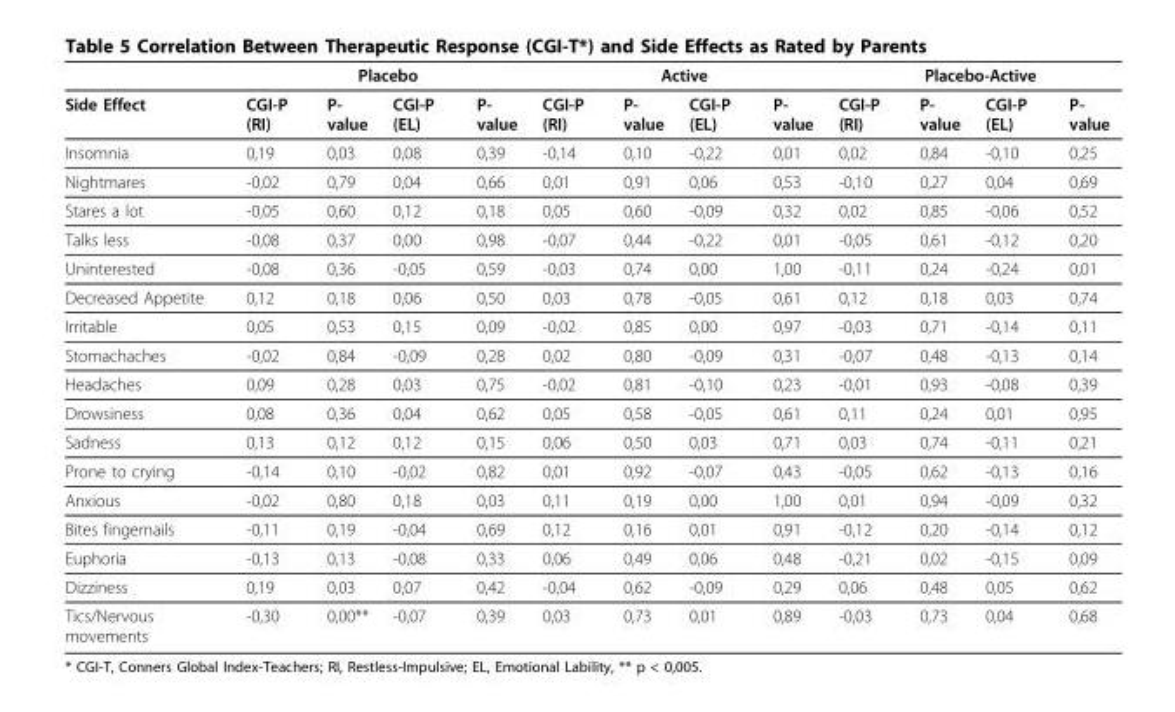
<table><thead><tr><td rowspan="2">Side Effect</td><td colspan="4">Placebo</td><td colspan="4">Active</td><td colspan="4">Placebo-Active</td></tr><tr><td>CGI-P (RI)</td><td>P- value</td><td>CGI-P (EL)</td><td>P- value</td><td>CGI-P (RI)</td><td>P- value</td><td>CGI-P (EL)</td><td>P- value</td><td>CGI-P (RI)</td><td>P- value</td><td>CGI-P (EL)</td><td>P- value</td></tr></thead><tbody><tr><td>Insomnia</td><td>0,19</td><td>0,03</td><td>0,08</td><td>0,39</td><td>-0,14</td><td>0,10</td><td>-0,22</td><td>0,01</td><td>0,02</td><td>0,84</td><td>-0,10</td><td>0,25</td></tr><tr><td>Nightmares</td><td>-0,02</td><td>0,79</td><td>0,04</td><td>0,66</td><td>0,01</td><td>0,91</td><td>0,06</td><td>0,53</td><td>-0,10</td><td>0,27</td><td>0,04</td><td>0,69</td></tr><tr><td>Stares a lot</td><td>-0,05</td><td>0,60</td><td>0,12</td><td>0,18</td><td>0,05</td><td>0,60</td><td>-0,09</td><td>0,32</td><td>0,02</td><td>0,85</td><td>-0,06</td><td>0,52</td></tr><tr><td>Talks less</td><td>-0,08</td><td>0,37</td><td>0,00</td><td>0,98</td><td>-0,07</td><td>0,44</td><td>-0,22</td><td>0,01</td><td>-0,05</td><td>0,61</td><td>-0,12</td><td>0,20</td></tr><tr><td>Uninterested</td><td>-0,08</td><td>0,36</td><td>-0,05</td><td>0,59</td><td>-0,03</td><td>0,74</td><td>0,00</td><td>1,00</td><td>-0,11</td><td>0,24</td><td>-0,24</td><td>0,01</td></tr><tr><td>Decreased Appetite</td><td>0,12</td><td>0,18</td><td>0,06</td><td>0,50</td><td>0,03</td><td>0,78</td><td>-0,05</td><td>0,61</td><td>0,12</td><td>0,18</td><td>0,03</td><td>0,74</td></tr><tr><td>Irritable</td><td>0,05</td><td>0,53</td><td>0,15</td><td>0,09</td><td>-0,02</td><td>0,85</td><td>0,00</td><td>0,97</td><td>-0,03</td><td>0,71</td><td>-0,14</td><td>0,11</td></tr><tr><td>Stomachaches</td><td>-0,02</td><td>0,84</td><td>-0,09</td><td>0,28</td><td>0,02</td><td>0,80</td><td>-0,09</td><td>0,31</td><td>-0,07</td><td>0,48</td><td>-0,13</td><td>0,14</td></tr><tr><td>Headaches</td><td>0,09</td><td>0,28</td><td>0,03</td><td>0,75</td><td>-0,02</td><td>0,81</td><td>-0,10</td><td>0,23</td><td>-0,01</td><td>0,93</td><td>-0,08</td><td>0,39</td></tr><tr><td>Drowsiness</td><td>0,08</td><td>0,36</td><td>0,04</td><td>0,62</td><td>0,05</td><td>0,58</td><td>-0,05</td><td>0,61</td><td>0,11</td><td>0,24</td><td>0,01</td><td>0,95</td></tr><tr><td>Sadness</td><td>0,13</td><td>0,12</td><td>0,12</td><td>0,15</td><td>0,06</td><td>0,50</td><td>0,03</td><td>0,71</td><td>0,03</td><td>0,74</td><td>-0,11</td><td>0,21</td></tr><tr><td>Prone to crying</td><td>-0,14</td><td>0,10</td><td>-0,02</td><td>0,82</td><td>0,01</td><td>0,92</td><td>-0,07</td><td>0,43</td><td>-0,05</td><td>0,62</td><td>-0,13</td><td>0,16</td></tr><tr><td>Anxious</td><td>-0,02</td><td>0,80</td><td>0,18</td><td>0,03</td><td>0,11</td><td>0,19</td><td>0,00</td><td>1,00</td><td>0,01</td><td>0,94</td><td>-0,09</td><td>0,32</td></tr><tr><td>Bites fingernails</td><td>-0,11</td><td>0,19</td><td>-0,04</td><td>0,69</td><td>0,12</td><td>0,16</td><td>0,01</td><td>0,91</td><td>-0,12</td><td>0,20</td><td>-0,14</td><td>0,12</td></tr><tr><td>Euphoria</td><td>-0,13</td><td>0,13</td><td>-0,08</td><td>0,33</td><td>0,06</td><td>0,49</td><td>0,06</td><td>0,48</td><td>-0,21</td><td>0,02</td><td>-0,15</td><td>0,09</td></tr><tr><td>Dizziness</td><td>0,19</td><td>0,03</td><td>0,07</td><td>0,42</td><td>-0,04</td><td>0,62</td><td>-0,09</td><td>0,29</td><td>0,06</td><td>0,48</td><td>0,05</td><td>0,62</td></tr><tr><td>Tics/Nervous movements</td><td>-0,30</td><td>0,00**</td><td>-0,07</td><td>0,39</td><td>0,03</td><td>0,73</td><td>0,01</td><td>0,89</td><td>-0,03</td><td>0,73</td><td>0,04</td><td>0,68</td></tr></tbody></table>